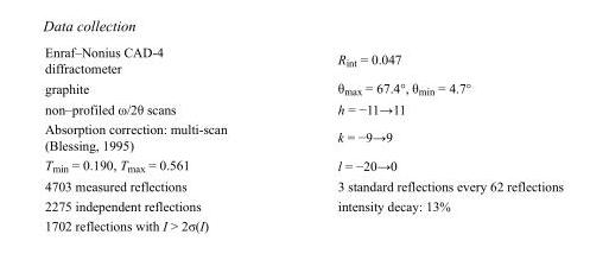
<table><tbody><tr><td>Enraf–Nonius CAD-4 diffractometer</td><td>R<sub>int</sub> = 0.047</td></tr><tr><td>graphite</td><td>θ<sub>max</sub> = 67.4°, θ<sub>min</sub> = 4.7°</td></tr><tr><td>non–profiled ω/2θ scans</td><td>h = −11→11</td></tr><tr><td>Absorption correction: multi-scan (Blessing, 1995)</td><td>k = −9→9</td></tr><tr><td>T<sub>min</sub> = 0.190, T<sub>max</sub> = 0.561</td><td>l = −20→0</td></tr><tr><td>4703 measured reflections</td><td>3 standard reflections every 62 reflections</td></tr><tr><td>2275 independent reflections</td><td>intensity decay: 13%</td></tr><tr><td>1702 reflections with I &gt; 2σ(I)</td><td></td></tr></tbody></table>